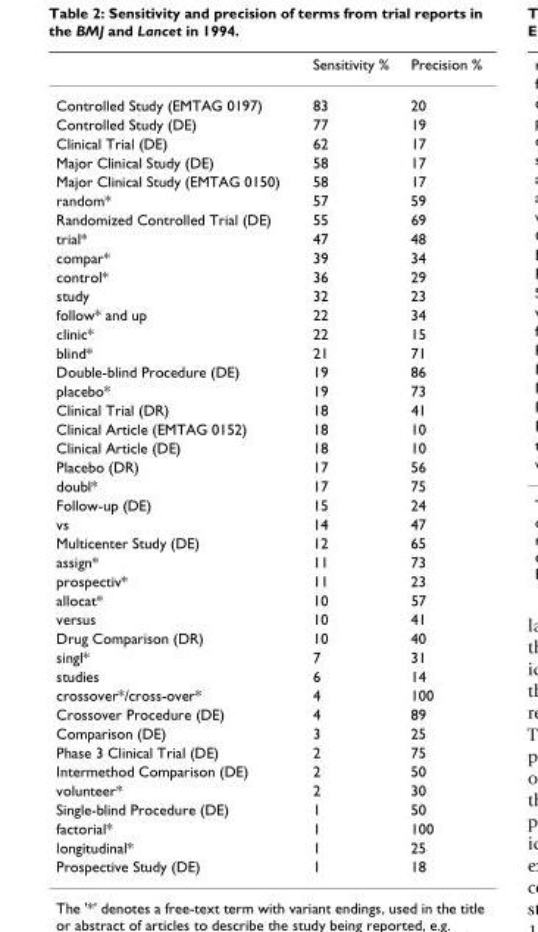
<table><thead><tr><td></td><td>Sensitivity %</td><td>Precision %</td></tr></thead><tbody><tr><td>Controlled Study (EMTAG 0197)</td><td>83</td><td>20</td></tr><tr><td>Controlled Study (DE)</td><td>77</td><td>19</td></tr><tr><td>Clinical Trial (DE)</td><td>62</td><td>17</td></tr><tr><td>Major Clinical Study (DE)</td><td>58</td><td>17</td></tr><tr><td>Major Clinical Study (EMTAG 0150)</td><td>58</td><td>17</td></tr><tr><td>random*</td><td>57</td><td>59</td></tr><tr><td>Randomized Controlled Trial (DE)</td><td>55</td><td>69</td></tr><tr><td>trial*</td><td>47</td><td>48</td></tr><tr><td>compar*</td><td>39</td><td>34</td></tr><tr><td>control*</td><td>36</td><td>29</td></tr><tr><td>study</td><td>32</td><td>23</td></tr><tr><td>follow* and up</td><td>22</td><td>34</td></tr><tr><td>clinic*</td><td>22</td><td>15</td></tr><tr><td>blind*</td><td>21</td><td>71</td></tr><tr><td>Double-blind Procedure (DE)</td><td>19</td><td>86</td></tr><tr><td>placebo*</td><td>19</td><td>73</td></tr><tr><td>Clinical Trial (DR)</td><td>18</td><td>41</td></tr><tr><td>Clinical Article (EMTAG 0152)</td><td>18</td><td>10</td></tr><tr><td>Clinical Article (DE)</td><td>18</td><td>10</td></tr><tr><td>Placebo (DR)</td><td>17</td><td>56</td></tr><tr><td>doubl*</td><td>17</td><td>75</td></tr><tr><td>Follow-up (DE)</td><td>15</td><td>24</td></tr><tr><td>vs</td><td>14</td><td>47</td></tr><tr><td>Multicenter Study (DE)</td><td>12</td><td>65</td></tr><tr><td>assign*</td><td>11</td><td>73</td></tr><tr><td>prospectiv*</td><td>11</td><td>23</td></tr><tr><td>allocat*</td><td>10</td><td>57</td></tr><tr><td>versus</td><td>10</td><td>41</td></tr><tr><td>Drug Comparison (DR)</td><td>10</td><td>40</td></tr><tr><td>singl*</td><td>7</td><td>31</td></tr><tr><td>studies</td><td>6</td><td>14</td></tr><tr><td>crossover*/cross-over*</td><td>4</td><td>100</td></tr><tr><td>Crossover Procedure (DE)</td><td>4</td><td>89</td></tr><tr><td>Comparison (DE)</td><td>3</td><td>25</td></tr><tr><td>Phase 3 Clinical Trial (DE)</td><td>2</td><td>75</td></tr><tr><td>Intermethod Comparison (DE)</td><td>2</td><td>50</td></tr><tr><td>volunteer*</td><td>2</td><td>30</td></tr><tr><td>Single-blind Procedure (DE)</td><td>1</td><td>50</td></tr><tr><td>factorial*</td><td>1</td><td>100</td></tr><tr><td>longitudinal*</td><td>1</td><td>25</td></tr><tr><td>Prospective Study (DE)</td><td>1</td><td>18</td></tr></tbody></table>